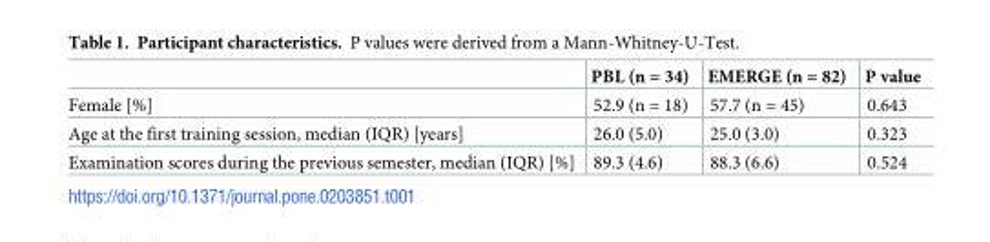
<table><thead><tr><td></td><td>PBL (n = 34)</td><td>EMERGE (n = 82)</td><td>P value</td></tr></thead><tbody><tr><td>Female [%]</td><td>52.9 (n = 18)</td><td>57.7 (n = 45)</td><td>0.643</td></tr><tr><td>Age at the first training session, median (IQR) [years]</td><td>26.0 (5.0)</td><td>25.0 (3.0)</td><td>0.323</td></tr><tr><td>Examination scores during the previous semester, median (IQR) [%]</td><td>89.3 (4.6)</td><td>88.3 (6.6)</td><td>0.524</td></tr></tbody></table>